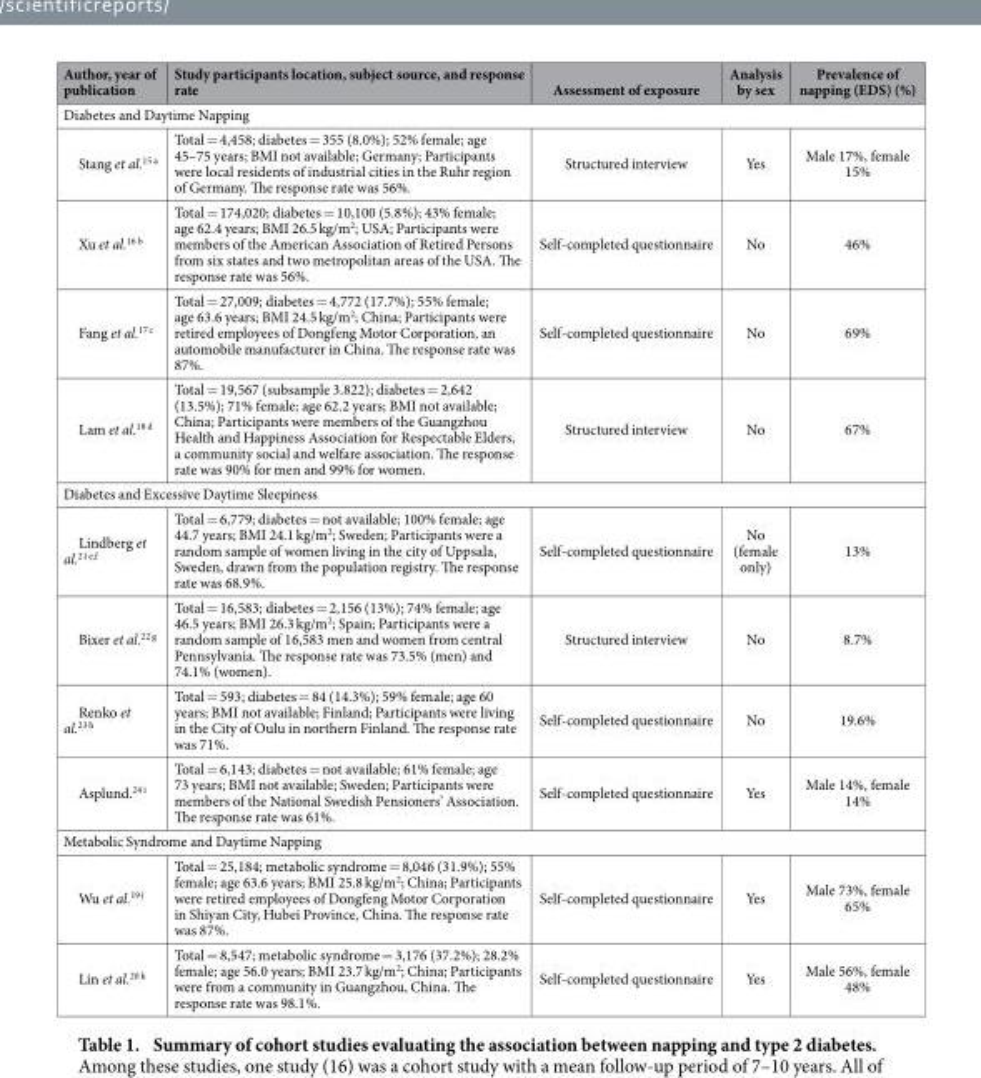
<table><thead><tr><td>Author, year of publication</td><td>Study participants location, subject source, and response rate</td><td>Assessment of exposure</td><td>Analysis by sex</td><td>Prevalence of napping (EDS) (%)</td></tr></thead><tbody><tr><td colspan="5">Diabetes and Daytime Napping</td></tr><tr><td>Stang et al.<sup>15 a</sup></td><td>Total = 4,458; diabetes = 355 (8.0%); 52% female; age 45–75 years; BMI not available; Germany; Participants were local residents of industrial cities in the Ruhr region of Germany. The response rate was 56%.</td><td>Structured interview</td><td>Yes</td><td>Male 17%, female 15%</td></tr><tr><td>Xu et al.<sup>16 b</sup></td><td>Total = 174,020; diabetes = 10,100 (5.8%); 43% female; age 62.4 years; BMI 26.5 kg/m<sup>2</sup>; USA; Participants were members of the American Association of Retired Persons from six states and two metropolitan areas of the USA. The response rate was 56%.</td><td>Self-completed questionnaire</td><td>No</td><td>46%</td></tr><tr><td>Fang et al.<sup>17</sup> c</td><td>Total = 27,009; diabetes = 4,772 (17.7%); 55% female; age 63.6 years; BMI 24.5 kg/m<sup>2</sup>; China; Participants were retired employees of Dongfeng Motor Corporation, an automobile manufacturer in China. The response rate was 87%.</td><td>Self-completed questionnaire</td><td>No</td><td>69%</td></tr><tr><td>Lam et al.<sup>18 d</sup></td><td>Total = 19,567 (subsample 3.822); diabetes = 2,642 (13.5%); 71% female; age 62.2 years; BMI not available; China; Participants were members of the Guangzhou Health and Happiness Association for Respectable Elders, a community social and welfare association. The response rate was 90% for men and 99% for women.</td><td>Structured interview</td><td>No</td><td>67%</td></tr><tr><td colspan="5">Diabetes and Excessive Daytime Sleepiness</td></tr><tr><td>Lindberg et al.<sup>21</sup> e,<sup>f</sup></td><td>Total = 6,779; diabetes = not available; 100% female; age 44.7 years; BMI 24.1 kg/m<sup>2</sup>; Sweden; Participants were a random sample of women living in the city of Uppsala, Sweden, drawn from the population registry. The response rate was 68.9%.</td><td>Self-completed questionnaire</td><td>No (female only)</td><td>13%</td></tr><tr><td>Bixer et al.<sup>22 g</sup></td><td>Total = 16,583; diabetes = 2,156 (13%); 74% female; age 46.5 years; BMI 26.3 kg/m<sup>2</sup>; Spain; Participants were a random sample of 16,583 men and women from central Pennsylvania. The response rate was 73.5% (men) and 74.1% (women).</td><td>Structured interview</td><td>No</td><td>8.7%</td></tr><tr><td>Renko et al.<sup>23</sup> h</td><td>Total = 593; diabetes = 84 (14.3%); 59% female; age 60 years; BMI not available; Finland; Participants were living in the City of Oulu in northern Finland. The response rate was 71%.</td><td>Self-completed questionnaire</td><td>No</td><td>19.6%</td></tr><tr><td>Asplund.<sup>24 i</sup></td><td>Total = 6,143; diabetes = not available; 61% female; age 73 years; BMI not available; Sweden; Participants were members of the National Swedish Pensioners’ Association. The response rate was 61%.</td><td>Self-completed questionnaire</td><td>Yes</td><td>Male 14%, female 14%</td></tr><tr><td colspan="5">Metabolic Syndrome and Daytime Napping</td></tr><tr><td>Wu et al.<sup>19</sup> j</td><td>Total = 25,184; metabolic syndrome = 8,046 (31.9%); 55% female; age 63.6 years; BMI 25.8 kg/m<sup>2</sup>; China; Participants were retired employees of Dongfeng Motor Corporation in Shiyan City, Hubei Province, China. The response rate was 87%.</td><td>Self-completed questionnaire</td><td>Yes</td><td>Male 73%, female 65%</td></tr><tr><td>Lin et al.<sup>20 k</sup></td><td>Total = 8,547; metabolic syndrome = 3,176 (37.2%); 28.2% female; age 56.0 years; BMI 23.7 kg/m<sup>2</sup>; China; Participants were from a community in Guangzhou, China. The response rate was 98.1%.</td><td>Self-completed questionnaire</td><td>Yes</td><td>Male 56%, female 48%</td></tr></tbody></table>